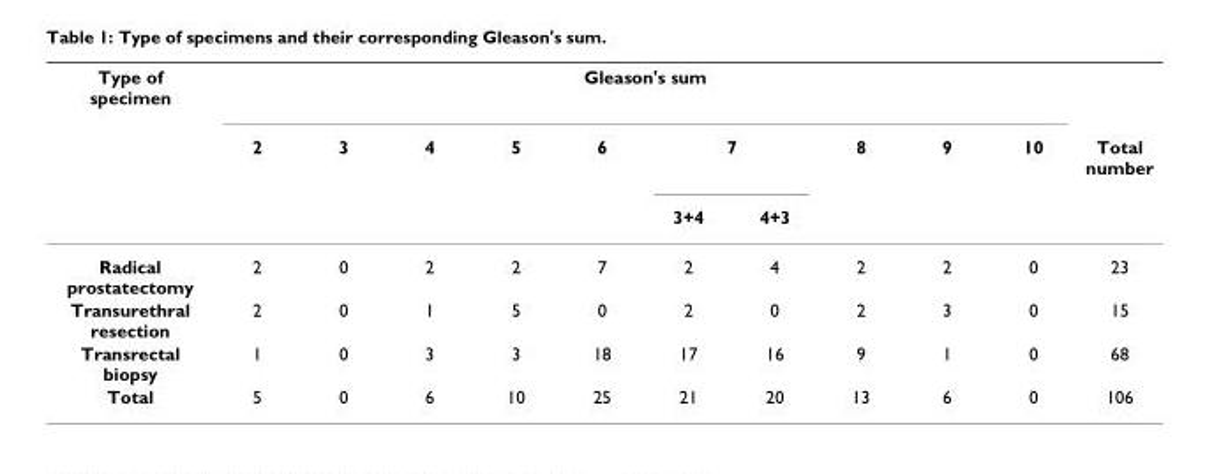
<table><thead><tr><td rowspan="3">Type of specimen</td><td colspan="10">Gleason&#x27;s sum</td><td rowspan="3">Total number</td></tr><tr><td rowspan="2">2</td><td rowspan="2">3</td><td rowspan="2">4</td><td rowspan="2">5</td><td rowspan="2">6</td><td colspan="2">7</td><td rowspan="2">8</td><td rowspan="2">9</td><td rowspan="2">10</td></tr><tr><td>3+4</td><td>4+3</td></tr></thead><tbody><tr><td>Radical prostatectomy</td><td>2</td><td>0</td><td>2</td><td>2</td><td>7</td><td>2</td><td>4</td><td>2</td><td>2</td><td>0</td><td>23</td></tr><tr><td>Transurethral resection</td><td>2</td><td>0</td><td>1</td><td>5</td><td>0</td><td>2</td><td>0</td><td>2</td><td>3</td><td>0</td><td>15</td></tr><tr><td>Transrectal biopsy</td><td>1</td><td>0</td><td>3</td><td>3</td><td>18</td><td>17</td><td>16</td><td>9</td><td>1</td><td>0</td><td>68</td></tr><tr><td>Total</td><td>5</td><td>0</td><td>6</td><td>10</td><td>25</td><td>21</td><td>20</td><td>13</td><td>6</td><td>0</td><td>106</td></tr></tbody></table>